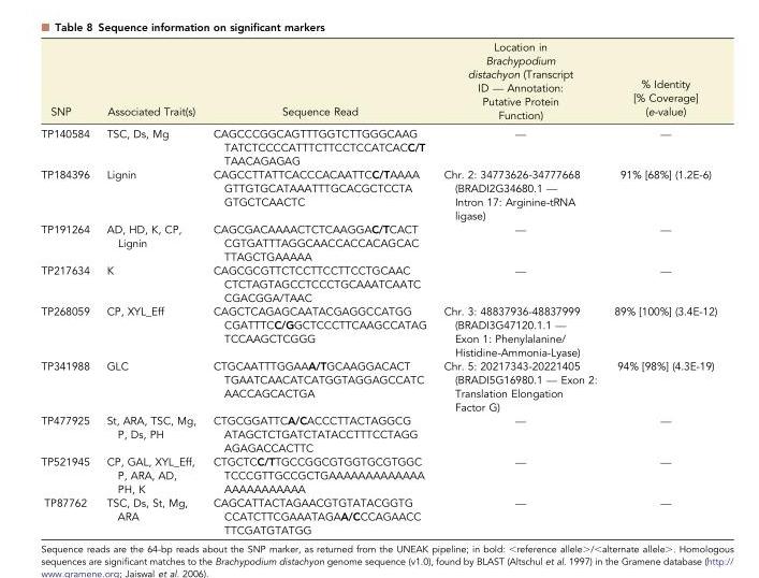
<table><thead><tr><td>SNP</td><td>Associated Trait(s)</td><td>Sequence Read</td><td>Location in Brachypodium distachyon (Transcript ID — Annotation: Putative Protein Function)</td><td>% Identity [% Coverage] (e-value)</td></tr></thead><tbody><tr><td>TP140584</td><td>TSC, Ds, Mg</td><td>CAGCCCGGCAGTTTGGTCTTGGGCAAG TATCTCCCCATTTCTTCCTCCATCACC/T TAACAGAGAG</td><td>—</td><td>—</td></tr><tr><td>TP184396</td><td>Lignin</td><td>CAGCCTTATTCACCCACAATTCC/TAAAA GTTGTGCATAAATTTGCACGCTCCTA GTGCTCAACTC</td><td>Chr. 2: 34773626-34777668 (BRADI2G34680.1 — Intron 17: Arginine-tRNA ligase)</td><td>91% [68%] (1.2E-6)</td></tr><tr><td>TP191264</td><td>AD, HD, K, CP, Lignin</td><td>CAGCGACAAAACTCTCAAGGAC/TCACT CGTGATTTAGGCAACCACCACAGCAC TTAGCTGAAAAA</td><td>—</td><td>—</td></tr><tr><td>TP217634</td><td>K</td><td>CAGCGCGTTCTCCTTCCTTCCTGCAAC CTCTAGTAGCCTCCCTGCAAATCAATC CGACGGA/TAAC</td><td>—</td><td>—</td></tr><tr><td>TP268059</td><td>CP, XYL_Eff</td><td>CAGCTCAGAGCAATACGAGGCCATGG CGATTTCC/GGCTCCCTTCAAGCCATAG TCCAAGCTCGGG</td><td>Chr. 3: 48837936-48837999 (BRADI3G47120.1.1 — Exon 1: Phenylalanine/ Histidine-Ammonia-Lyase)</td><td>89% [100%] (3.4E-12)</td></tr><tr><td>TP341988</td><td>GLC</td><td>CTGCAATTTGGAAA/TGCAAGGACACT TGAATCAACATCATGGTAGGAGCCATC AACCAGCACTGA</td><td>Chr. 5: 20217343-20221405 (BRADI5G16980.1 — Exon 2: Translation Elongation Factor G)</td><td>94% [98%] (4.3E-19)</td></tr><tr><td>TP477925</td><td>St, ARA, TSC, Mg, P, Ds, PH</td><td>CTGCGGATTCA/CACCCTTACTAGGCG ATAGCTCTGATCTATACCTTTCCTAGG AGAGACCACTTC</td><td>—</td><td>—</td></tr><tr><td>TP521945</td><td>CP, GAL, XYL_Eff, P, ARA, AD, PH, K</td><td>CTGCTCC/TTGCCGGCGTGGTGCGTGGC TCCCGTTGCCGCTGAAAAAAAAAAAAA AAAAAAAAAAA</td><td>—</td><td>—</td></tr><tr><td>TP87762</td><td>TSC, Ds, St, Mg, ARA</td><td>CAGCATTACTAGAACGTGTATACGGTG CCATCTTCGAAATAGAA/CCCAGAACC TTCGATGTATGG</td><td>—</td><td>—</td></tr></tbody></table>